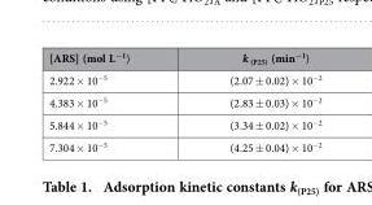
<table><thead><tr><td>[ARS] (mol L<sup>−1</sup>)</td><td>k <sub>(P25)</sub> (min<sup>−1</sup>)</td></tr></thead><tbody><tr><td>2.922 × 10<sup>−5</sup></td><td>(2.07 ± 0.02) × 10<sup>−2</sup></td></tr><tr><td>4.383 × 10<sup>−5</sup></td><td>(2.83 ± 0.03) × 10<sup>−2</sup></td></tr><tr><td>5.844 × 10<sup>−5</sup></td><td>(3.34 ± 0.02) × 10<sup>−2</sup></td></tr><tr><td>7.304 × 10<sup>−5</sup></td><td>(4.25 ± 0.04) × 10<sup>−2</sup></td></tr></tbody></table>